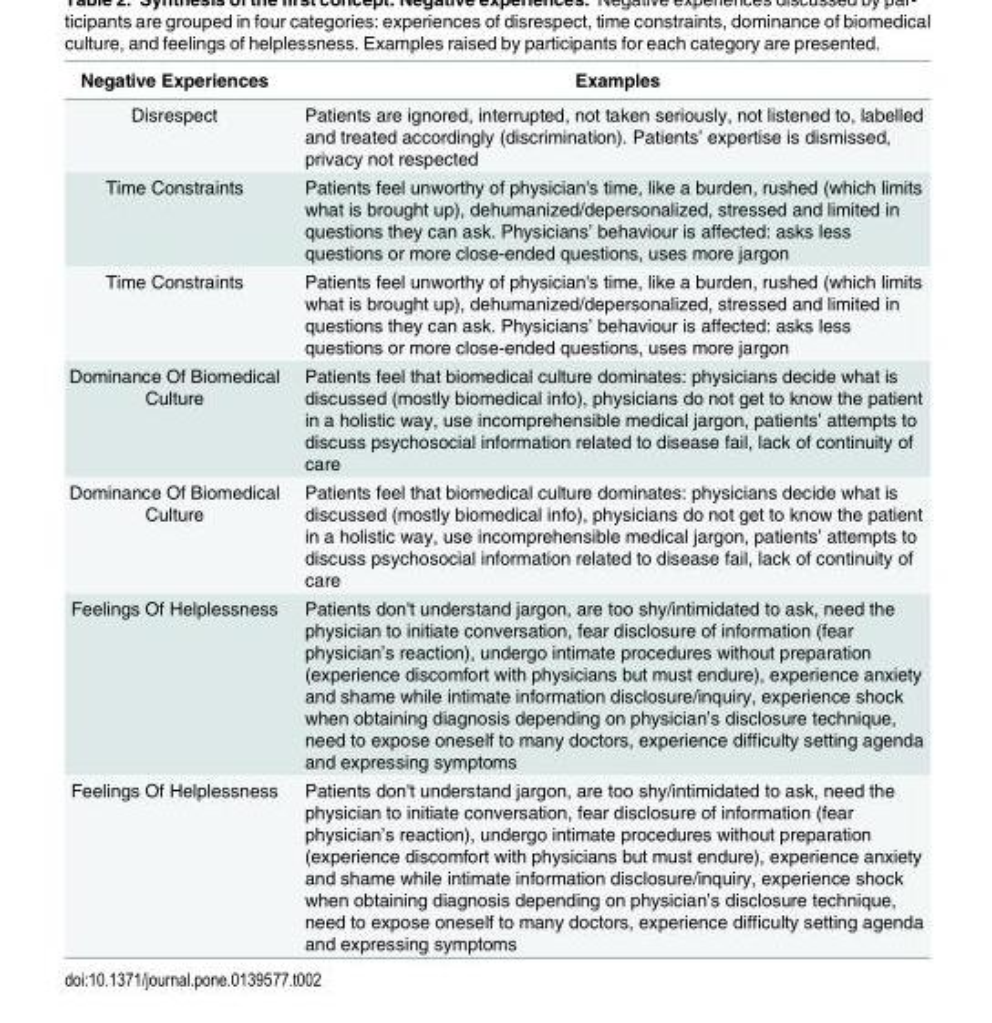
<table><thead><tr><td>Negative Experiences</td><td>Examples</td></tr></thead><tbody><tr><td>Disrespect</td><td>Patients are ignored, interrupted, not taken seriously, not listened to, labelled and treated accordingly (discrimination). Patients’ expertise is dismissed, privacy not respected</td></tr><tr><td>Time Constraints</td><td>Patients feel unworthy of physician&#x27;s time, like a burden, rushed (which limits what is brought up), dehumanized/depersonalized, stressed and limited in questions they can ask. Physicians’ behaviour is affected: asks less questions or more close-ended questions, uses more jargon</td></tr><tr><td>Time Constraints</td><td>Patients feel unworthy of physician&#x27;s time, like a burden, rushed (which limits what is brought up), dehumanized/depersonalized, stressed and limited in questions they can ask. Physicians’ behaviour is affected: asks less questions or more close-ended questions, uses more jargon</td></tr><tr><td>Dominance Of Biomedical Culture</td><td>Patients feel that biomedical culture dominates: physicians decide what is discussed (mostly biomedical info), physicians do not get to know the patient in a holistic way, use incomprehensible medical jargon, patients’ attempts to discuss psychosocial information related to disease fail, lack of continuity of care</td></tr><tr><td>Dominance Of Biomedical Culture</td><td>Patients feel that biomedical culture dominates: physicians decide what is discussed (mostly biomedical info), physicians do not get to know the patient in a holistic way, use incomprehensible medical jargon, patients’ attempts to discuss psychosocial information related to disease fail, lack of continuity of care</td></tr><tr><td>Feelings Of Helplessness</td><td>Patients don&#x27;t understand jargon, are too shy/intimidated to ask, need the physician to initiate conversation, fear disclosure of information (fear physician’s reaction), undergo intimate procedures without preparation (experience discomfort with physicians but must endure), experience anxiety and shame while intimate information disclosure/inquiry, experience shock when obtaining diagnosis depending on physician’s disclosure technique, need to expose oneself to many doctors, experience difficulty setting agenda and expressing symptoms</td></tr><tr><td>Feelings Of Helplessness</td><td>Patients don&#x27;t understand jargon, are too shy/intimidated to ask, need the physician to initiate conversation, fear disclosure of information (fear physician’s reaction), undergo intimate procedures without preparation (experience discomfort with physicians but must endure), experience anxiety and shame while intimate information disclosure/inquiry, experience shock when obtaining diagnosis depending on physician’s disclosure technique, need to expose oneself to many doctors, experience difficulty setting agenda and expressing symptoms</td></tr></tbody></table>